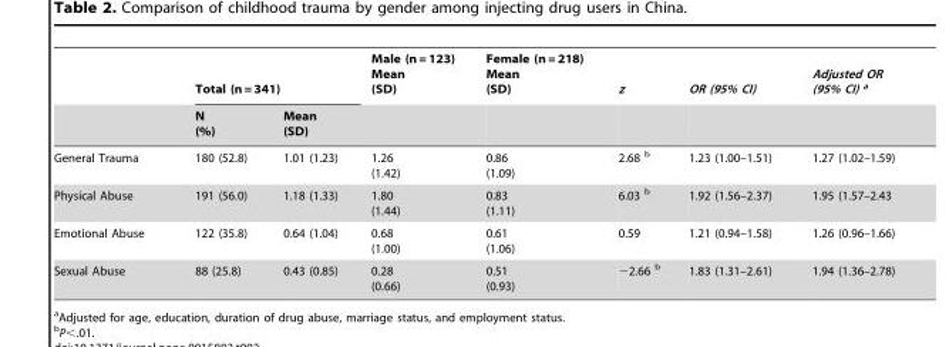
<table><thead><tr><td rowspan="2"></td><td colspan="2">Total (n = 341)</td><td rowspan="2">Male (n = 123) Mean (SD)</td><td rowspan="2">Female (n = 218) Mean (SD)</td><td rowspan="2">z</td><td rowspan="2">OR (95% CI)</td><td rowspan="2">Adjusted OR (95% CI) a</td></tr><tr><td>N (%)</td><td>Mean (SD)</td></tr></thead><tbody><tr><td>General Trauma</td><td>180 (52.8)</td><td>1.01 (1.23)</td><td>1.26 (1.42)</td><td>0.86 (1.09)</td><td>2.68 b</td><td>1.23 (1.00–1.51)</td><td>1.27 (1.02–1.59)</td></tr><tr><td>Physical Abuse</td><td>191 (56.0)</td><td>1.18 (1.33)</td><td>1.80 (1.44)</td><td>0.83 (1.11)</td><td>6.03 b</td><td>1.92 (1.56–2.37)</td><td>1.95 (1.57–2.43</td></tr><tr><td>Emotional Abuse</td><td>122 (35.8)</td><td>0.64 (1.04)</td><td>0.68 (1.00)</td><td>0.61 (1.06)</td><td>0.59</td><td>1.21 (0.94–1.58)</td><td>1.26 (0.96–1.66)</td></tr><tr><td>Sexual Abuse</td><td>88 (25.8)</td><td>0.43 (0.85)</td><td>0.28 (0.66)</td><td>0.51 (0.93)</td><td>−2.66 b</td><td>1.83 (1.31–2.61)</td><td>1.94 (1.36–2.78)</td></tr></tbody></table>